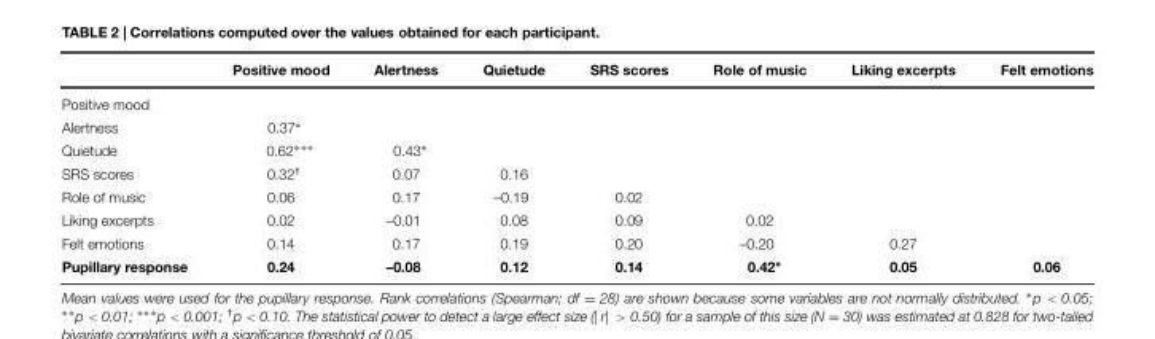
<table><thead><tr><td></td><td>Positive mood</td><td>Alertness</td><td>Quietude</td><td>SRS scores</td><td>Role of music</td><td>Liking excerpts</td><td>Felt emotions</td></tr></thead><tbody><tr><td colspan="8">Positive mood</td></tr><tr><td>Alertness</td><td>0.37∗</td><td></td><td></td><td></td><td></td><td></td><td></td></tr><tr><td>Quietude</td><td>0.62∗∗∗</td><td>0.43∗</td><td></td><td></td><td></td><td></td><td></td></tr><tr><td>SRS scores</td><td>0.32<sup>†</sup></td><td>0.07</td><td>0.16</td><td></td><td></td><td></td><td></td></tr><tr><td>Role of music</td><td>0.06</td><td>0.17</td><td>–0.19</td><td>0.02</td><td></td><td></td><td></td></tr><tr><td>Liking excerpts</td><td>0.02</td><td>–0.01</td><td>0.08</td><td>0.09</td><td>0.02</td><td></td><td></td></tr><tr><td>Felt emotions</td><td>0.14</td><td>0.17</td><td>0.19</td><td>0.20</td><td>–0.20</td><td>0.27</td><td></td></tr><tr><td>Pupillary response</td><td>0.24</td><td>–0.08</td><td>0.12</td><td>0.14</td><td>0.42∗</td><td>0.05</td><td>0.06</td></tr></tbody></table>